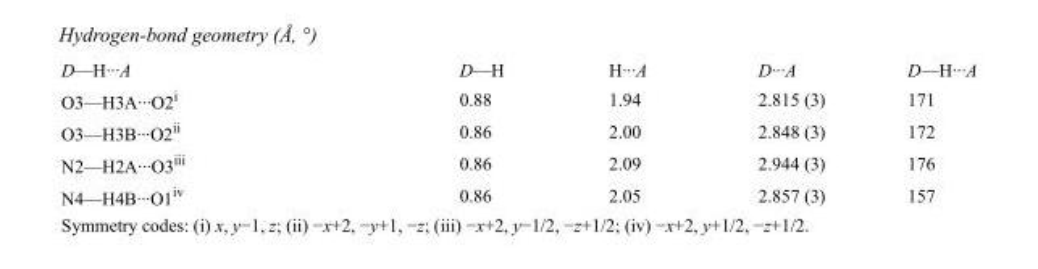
<table><tbody><tr><td>D—H···A</td><td>D—H</td><td>H···A</td><td>D···A</td><td>D—H···A</td></tr><tr><td>O3—H3A···O2<sup>i</sup></td><td>0.88</td><td>1.94</td><td>2.815 (3)</td><td>171</td></tr><tr><td>O3—H3B···O2<sup>ii</sup></td><td>0.86</td><td>2.00</td><td>2.848 (3)</td><td>172</td></tr><tr><td>N2—H2A···O3<sup>iii</sup></td><td>0.86</td><td>2.09</td><td>2.944 (3)</td><td>176</td></tr><tr><td>N4—H4B···O1<sup>iv</sup></td><td>0.86</td><td>2.05</td><td>2.857 (3)</td><td>157</td></tr></tbody></table>